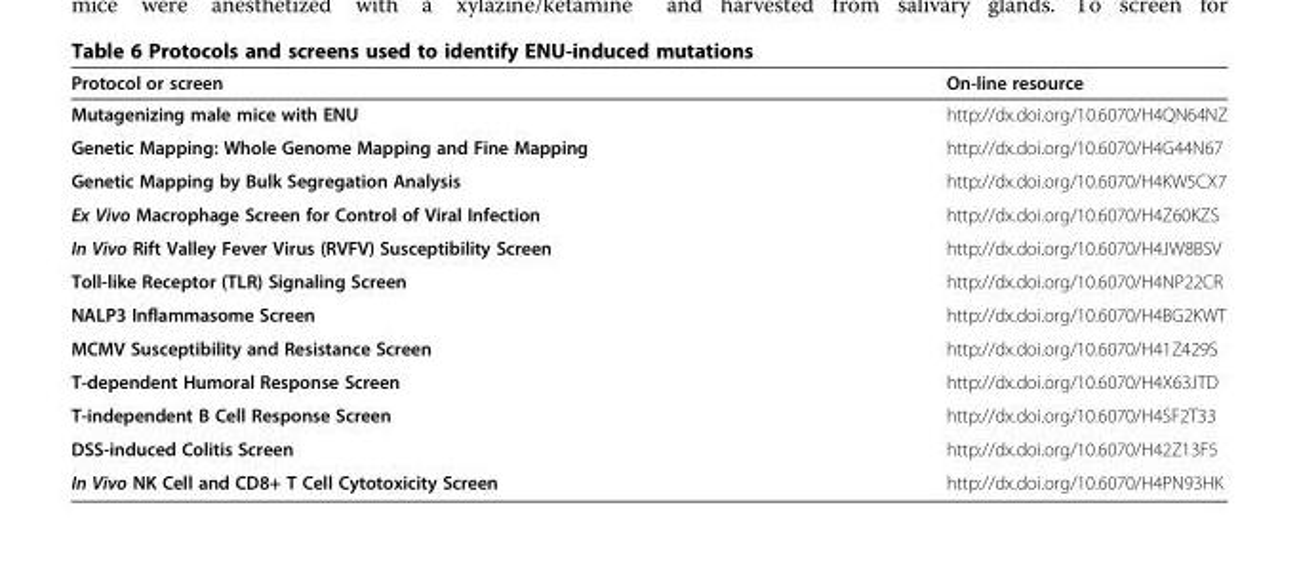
<table><thead><tr><td>Protocol or screen</td><td>On-line resource</td></tr></thead><tbody><tr><td>Mutagenizing male mice with ENU</td><td>http://dx.doi.org/10.6070/H4QN64NZ</td></tr><tr><td>Genetic Mapping: Whole Genome Mapping and Fine Mapping</td><td>http://dx.doi.org/10.6070/H4G44N67</td></tr><tr><td>Genetic Mapping by Bulk Segregation Analysis</td><td>http://dx.doi.org/10.6070/H4KW5CX7</td></tr><tr><td>Ex Vivo Macrophage Screen for Control of Viral Infection</td><td>http://dx.doi.org/10.6070/H4Z60KZS</td></tr><tr><td>In Vivo Rift Valley Fever Virus (RVFV) Susceptibility Screen</td><td>http://dx.doi.org/10.6070/H4JW8BSV</td></tr><tr><td>Toll-like Receptor (TLR) Signaling Screen</td><td>http://dx.doi.org/10.6070/H4NP22CR</td></tr><tr><td>NALP3 Inflammasome Screen</td><td>http://dx.doi.org/10.6070/H4BG2KWT</td></tr><tr><td>MCMV Susceptibility and Resistance Screen</td><td>http://dx.doi.org/10.6070/H41Z429S</td></tr><tr><td>T-dependent Humoral Response Screen</td><td>http://dx.doi.org/10.6070/H4X63JTD</td></tr><tr><td>T-independent B Cell Response Screen</td><td>http://dx.doi.org/10.6070/H4SF2T33</td></tr><tr><td>DSS-induced Colitis Screen</td><td>http://dx.doi.org/10.6070/H42Z13F5</td></tr><tr><td>In Vivo NK Cell and CD8+ T Cell Cytotoxicity Screen</td><td>http://dx.doi.org/10.6070/H4PN93HK</td></tr></tbody></table>